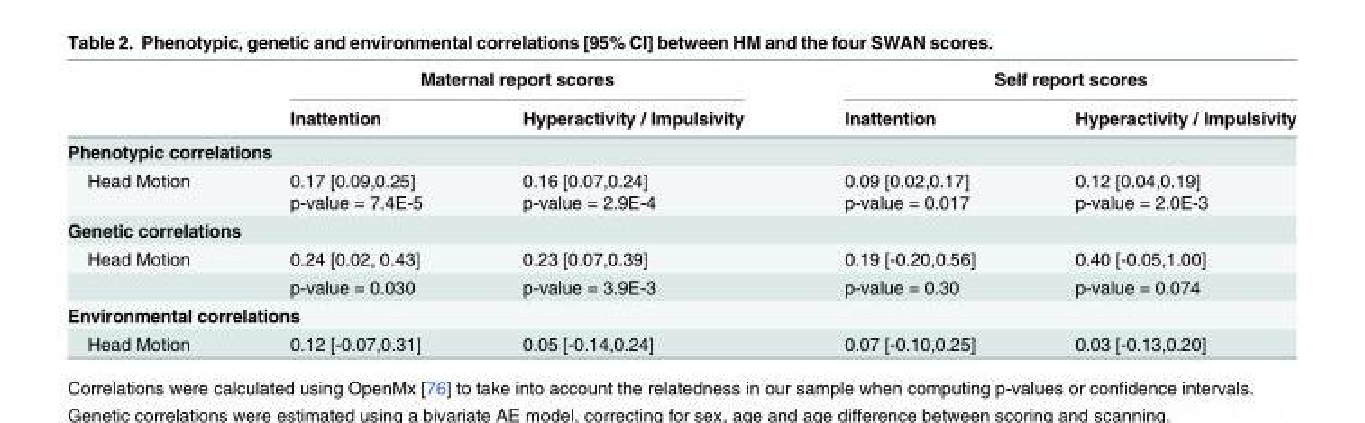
<table><thead><tr><td rowspan="2"></td><td colspan="2">Maternal report scores</td><td colspan="2">Self report scores</td></tr><tr><td>Inattention</td><td>Hyperactivity / Impulsivity</td><td>Inattention</td><td>Hyperactivity / Impulsivity</td></tr></thead><tbody><tr><td colspan="5">Phenotypic correlations</td></tr><tr><td>Head Motion</td><td>0.17 [0.09,0.25] p-value = 7.4E-5</td><td>0.16 [0.07,0.24] p-value = 2.9E-4</td><td>0.09 [0.02,0.17] p-value = 0.017</td><td>0.12 [0.04,0.19] p-value = 2.0E-3</td></tr><tr><td colspan="5">Genetic correlations</td></tr><tr><td rowspan="2">Head Motion</td><td>0.24 [0.02, 0.43]</td><td>0.23 [0.07,0.39]</td><td>0.19 [-0.20,0.56]</td><td>0.40 [-0.05,1.00]</td></tr><tr><td>p-value = 0.030</td><td>p-value = 3.9E-3</td><td>p-value = 0.30</td><td>p-value = 0.074</td></tr><tr><td colspan="5">Environmental correlations</td></tr><tr><td>Head Motion</td><td>0.12 [-0.07,0.31]</td><td>0.05 [-0.14,0.24]</td><td>0.07 [-0.10,0.25]</td><td>0.03 [-0.13,0.20]</td></tr></tbody></table>